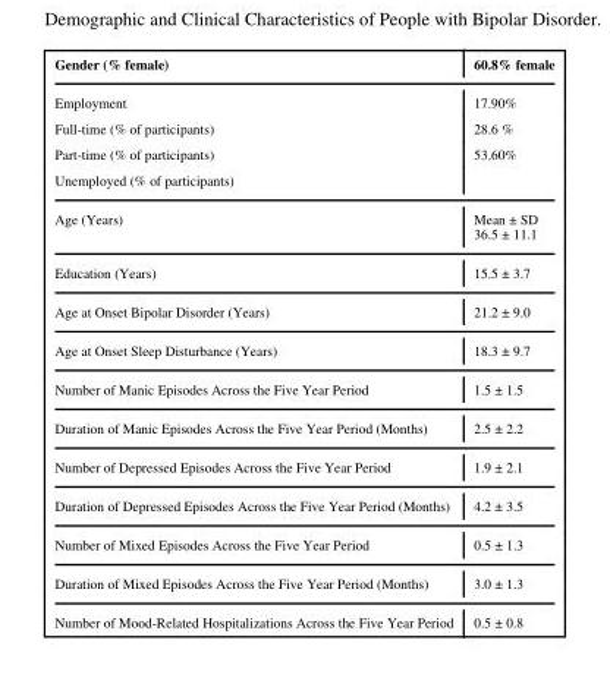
<table><thead><tr><td>Gender (% female)</td><td>60.8% female</td></tr></thead><tbody><tr><td>Employment</td><td>17.90%</td></tr><tr><td>Full-time (% of participants)</td><td>28.6 %</td></tr><tr><td>Part-time (% of participants)</td><td>53.60%</td></tr><tr><td colspan="2">Unemployed (% of participants)</td></tr><tr><td>Age (Years)</td><td>Mean ± SD 36.5 ± 11.1</td></tr><tr><td>Education (Years)</td><td>15.5 ± 3.7</td></tr><tr><td>Age at Onset Bipolar Disorder (Years)</td><td>21.2 ± 9.0</td></tr><tr><td>Age at Onset Sleep Disturbance (Years)</td><td>18.3 ± 9.7</td></tr><tr><td>Number of Manic Episodes Across the Five Year Period</td><td>1.5 ± 1.5</td></tr><tr><td>Duration of Manic Episodes Across the Five Year Period (Months)</td><td>2.5 ± 2.2</td></tr><tr><td>Number of Depressed Episodes Across the Five Year Period</td><td>1.9 ± 2.1</td></tr><tr><td>Duration of Depressed Episodes Across the Five Year Period (Months)</td><td>4.2 ± 3.5</td></tr><tr><td>Number of Mixed Episodes Across the Five Year Period</td><td>0.5 ± 1.3</td></tr><tr><td>Duration of Mixed Episodes Across the Five Year Period (Months)</td><td>3.0 ± 1.3</td></tr><tr><td>Number of Mood-Related Hospitalizations Across the Five Year Period</td><td>0.5 ± 0.8</td></tr></tbody></table>